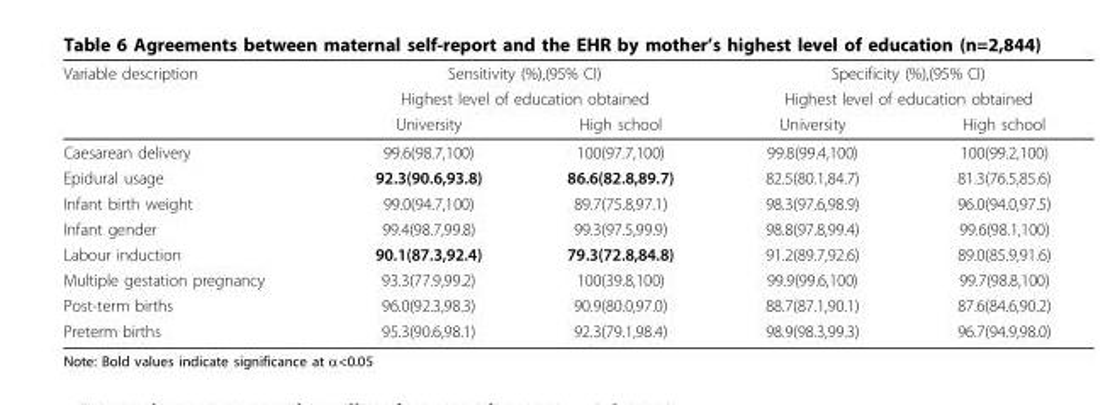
<table><thead><tr><td rowspan="3">Variable description</td><td rowspan="2" colspan="2">Sensitivity (%),(95% CI) Highest level of education obtained</td><td rowspan="2" colspan="2">Specificity (%),(95% CI) Highest level of education obtained</td></tr><tr></tr><tr><td>University</td><td>High school</td><td>University</td><td>High school</td></tr></thead><tbody><tr><td>Caesarean delivery</td><td>99.6(98.7,100)</td><td>100(97.7,100)</td><td>99.8(99.4,100)</td><td>100(99.2,100)</td></tr><tr><td>Epidural usage</td><td>92.3(90.6,93.8)</td><td>86.6(82.8,89.7)</td><td>82.5(80.1,84.7)</td><td>81.3(76.5,85.6)</td></tr><tr><td>Infant birth weight</td><td>99.0(94.7,100)</td><td>89.7(75.8,97.1)</td><td>98.3(97.6,98.9)</td><td>96.0(94.0,97.5)</td></tr><tr><td>Infant gender</td><td>99.4(98.7,99.8)</td><td>99.3(97.5,99.9)</td><td>98.8(97.8,99.4)</td><td>99.6(98.1,100)</td></tr><tr><td>Labour induction</td><td>90.1(87.3,92.4)</td><td>79.3(72.8,84.8)</td><td>91.2(89.7,92.6)</td><td>89.0(85.9,91.6)</td></tr><tr><td>Multiple gestation pregnancy</td><td>93.3(77.9,99.2)</td><td>100(39.8,100)</td><td>99.9(99.6,100)</td><td>99.7(98.8,100)</td></tr><tr><td>Post-term births</td><td>96.0(92.3,98.3)</td><td>90.9(80.0,97.0)</td><td>88.7(87.1,90.1)</td><td>87.6(84.6,90.2)</td></tr><tr><td>Preterm births</td><td>95.3(90.6,98.1)</td><td>92.3(79.1,98.4)</td><td>98.9(98.3,99.3)</td><td>96.7(94.9,98.0)</td></tr></tbody></table>